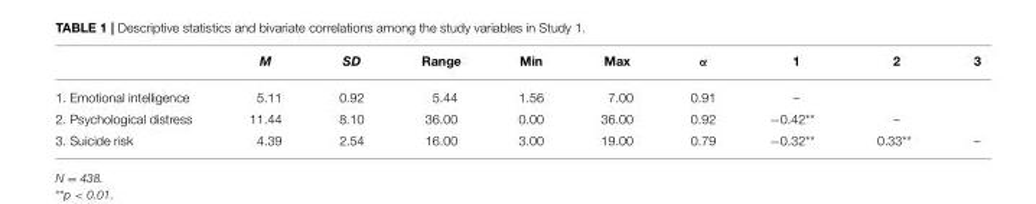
<table><thead><tr><td></td><td>M</td><td>SD</td><td>Range</td><td>Min</td><td>Max</td><td>α</td><td>1</td><td>2</td><td>3</td></tr></thead><tbody><tr><td>1. Emotional intelligence</td><td>5.11</td><td>0.92</td><td>5.44</td><td>1.56</td><td>7.00</td><td>0.91</td><td>–</td><td></td><td></td></tr><tr><td>2. Psychological distress</td><td>11.44</td><td>8.10</td><td>36.00</td><td>0.00</td><td>36.00</td><td>0.92</td><td>−0.42**</td><td>–</td><td></td></tr><tr><td>3. Suicide risk</td><td>4.39</td><td>2.54</td><td>16.00</td><td>3.00</td><td>19.00</td><td>0.79</td><td>−0.32**</td><td>0.33**</td><td>–</td></tr></tbody></table>